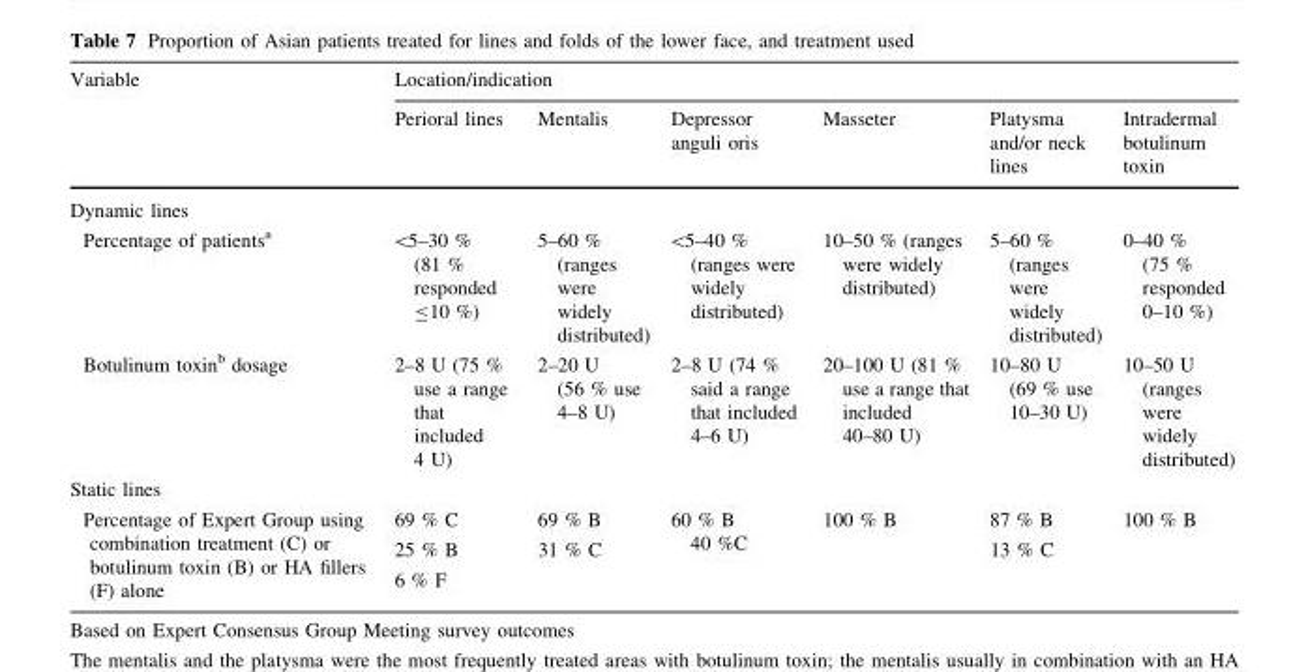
<table><thead><tr><td rowspan="2">Variable</td><td colspan="6">Location/indication</td></tr><tr><td>Perioral lines</td><td>Mentalis</td><td>Depressor anguli oris</td><td>Masseter</td><td>Platysma and/or neck lines</td><td>Intradermal botulinum toxin</td></tr></thead><tbody><tr><td colspan="7">Dynamic lines</td></tr><tr><td>Percentage of patients<sup>a</sup></td><td>&lt;5–30 % (81 % responded ≤10 %)</td><td>5–60 % (ranges were widely distributed)</td><td>&lt;5–40 % (ranges were widely distributed)</td><td>10–50 % (ranges were widely distributed)</td><td>5–60 % (ranges were widely distributed)</td><td>0–40 % (75 % responded 0–10 %)</td></tr><tr><td>Botulinum toxin<sup>b</sup> dosage</td><td>2–8 U (75 % use a range that included 4 U)</td><td>2–20 U (56 % use 4–8 U)</td><td>2–8 U (74 % said a range that included 4–6 U)</td><td>20–100 U (81 % use a range that included 40–80 U)</td><td>10–80 U (69 % use 10–30 U)</td><td>10–50 U (ranges were widely distributed)</td></tr><tr><td colspan="7">Static lines</td></tr><tr><td>Percentage of Expert Group using combination treatment (C) or botulinum toxin (B) or HA fillers (F) alone</td><td>69 % C 25 % B 6 % F</td><td>69 % B 31 % C</td><td>60 % B 40 %C</td><td>100 % B</td><td>87 % B 13 % C</td><td>100 % B</td></tr></tbody></table>